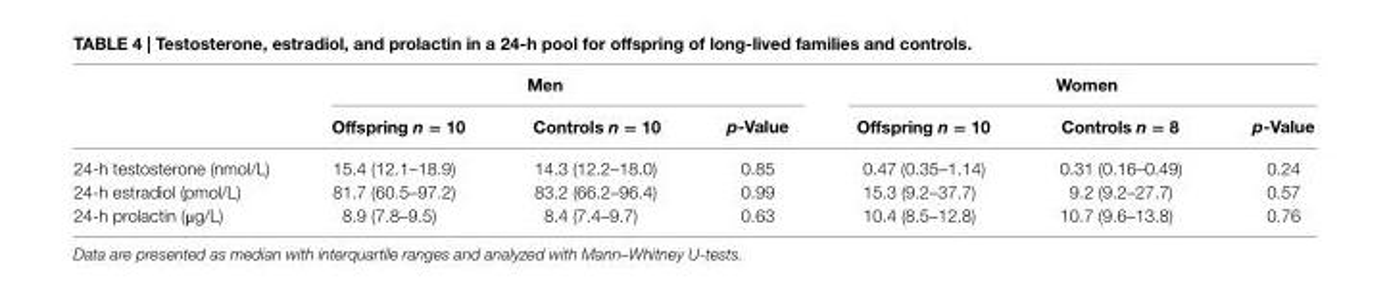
<table><thead><tr><td rowspan="2"></td><td colspan="3">Men</td><td colspan="3">Women</td></tr><tr><td>Offspring n = 10</td><td>controls n = 10</td><td>p-Value</td><td>Offspring n = 10</td><td>controls n = 8</td><td>p-Value</td></tr></thead><tbody><tr><td>24-h testosterone (nmol/L)</td><td>15.4 (12.1–18.9)</td><td>14.3 (12.2–18.0)</td><td>0.85</td><td>0.47 (0.35–1.14)</td><td>0.31 (0.16–0.49)</td><td>0.24</td></tr><tr><td>24-h estradiol (pmol/L)</td><td>81.7 (60.5–97.2)</td><td>83.2 (66.2–96.4)</td><td>0.99</td><td>15.3 (9.2–37.7)</td><td>9.2 (9.2–27.7)</td><td>0.57</td></tr><tr><td>24-h prolactin (μg/L)</td><td>8.9 (7.8–9.5)</td><td>8.4 (7.4–9.7)</td><td>0.63</td><td>10.4 (8.5–12.8)</td><td>10.7 (9.6–13.8)</td><td>0.76</td></tr></tbody></table>